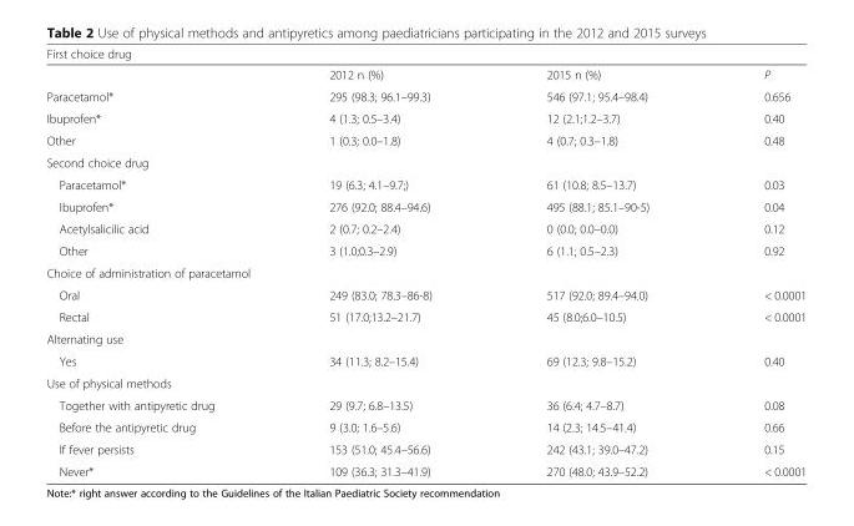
<table><thead><tr><td colspan="4">First choice drug</td></tr><tr><td></td><td>2012 n (%)</td><td>2015 n (%)</td><td>P</td></tr></thead><tbody><tr><td>Paracetamol*</td><td>295 (98.3; 96.1–99.3)</td><td>546 (97.1; 95.4–98.4)</td><td>0.656</td></tr><tr><td>Ibuprofen*</td><td>4 (1.3; 0.5–3.4)</td><td>12 (2.1;1.2–3.7)</td><td>0.40</td></tr><tr><td>Other</td><td>1 (0.3; 0.0–1.8)</td><td>4 (0.7; 0.3–1.8)</td><td>0.48</td></tr><tr><td colspan="4">Second choice drug</td></tr><tr><td>Paracetamol*</td><td>19 (6.3; 4.1–9.7;)</td><td>61 (10.8; 8.5–13.7)</td><td>0.03</td></tr><tr><td>Ibuprofen*</td><td>276 (92.0; 88.4–94.6)</td><td>495 (88.1; 85.1–90-5)</td><td>0.04</td></tr><tr><td>Acetylsalicilic acid</td><td>2 (0.7; 0.2–2.4)</td><td>0 (0.0; 0.0–0.0)</td><td>0.12</td></tr><tr><td>Other</td><td>3 (1.0;0.3–2.9)</td><td>6 (1.1; 0.5–2.3)</td><td>0.92</td></tr><tr><td colspan="4">Choice of administration of paracetamol</td></tr><tr><td>Oral</td><td>249 (83.0; 78.3–86-8)</td><td>517 (92.0; 89.4–94.0)</td><td>&lt; 0.0001</td></tr><tr><td>Rectal</td><td>51 (17.0;13.2–21.7)</td><td>45 (8.0;6.0–10.5)</td><td>&lt; 0.0001</td></tr><tr><td colspan="4">Alternating use</td></tr><tr><td>Yes</td><td>34 (11.3; 8.2–15.4)</td><td>69 (12.3; 9.8–15.2)</td><td>0.40</td></tr><tr><td colspan="4">Use of physical methods</td></tr><tr><td>Together with antipyretic drug</td><td>29 (9.7; 6.8–13.5)</td><td>36 (6.4; 4.7–8.7)</td><td>0.08</td></tr><tr><td>Before the antipyretic drug</td><td>9 (3.0; 1.6–5.6)</td><td>14 (2.3; 14.5–41.4)</td><td>0.66</td></tr><tr><td>If fever persists</td><td>153 (51.0; 45.4–56.6)</td><td>242 (43.1; 39.0–47.2)</td><td>0.15</td></tr><tr><td>Never*</td><td>109 (36.3; 31.3–41.9)</td><td>270 (48.0; 43.9–52.2)</td><td>&lt; 0.0001</td></tr></tbody></table>